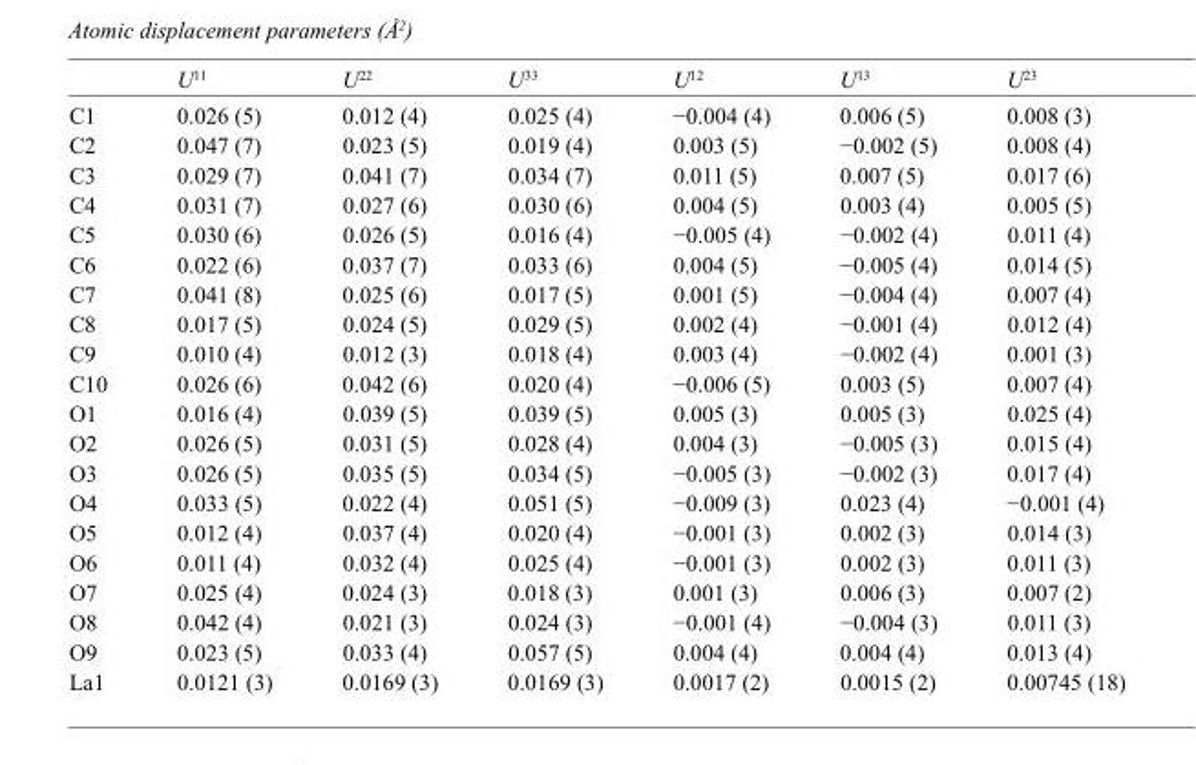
<table><thead><tr><td></td><td>U<sup>11</sup></td><td>U<sup>22</sup></td><td>U<sup>33</sup></td><td>U<sup>12</sup></td><td>U<sup>13</sup></td><td>U<sup>23</sup></td></tr></thead><tbody><tr><td>C1</td><td>0.026 (5)</td><td>0.012 (4)</td><td>0.025 (4)</td><td>−0.004 (4)</td><td>0.006 (5)</td><td>0.008 (3)</td></tr><tr><td>C2</td><td>0.047 (7)</td><td>0.023 (5)</td><td>0.019 (4)</td><td>0.003 (5)</td><td>−0.002 (5)</td><td>0.008 (4)</td></tr><tr><td>C3</td><td>0.029 (7)</td><td>0.041 (7)</td><td>0.034 (7)</td><td>0.011 (5)</td><td>0.007 (5)</td><td>0.017 (6)</td></tr><tr><td>C4</td><td>0.031 (7)</td><td>0.027 (6)</td><td>0.030 (6)</td><td>0.004 (5)</td><td>0.003 (4)</td><td>0.005 (5)</td></tr><tr><td>C5</td><td>0.030 (6)</td><td>0.026 (5)</td><td>0.016 (4)</td><td>−0.005 (4)</td><td>−0.002 (4)</td><td>0.011 (4)</td></tr><tr><td>C6</td><td>0.022 (6)</td><td>0.037 (7)</td><td>0.033 (6)</td><td>0.004 (5)</td><td>−0.005 (4)</td><td>0.014 (5)</td></tr><tr><td>C7</td><td>0.041 (8)</td><td>0.025 (6)</td><td>0.017 (5)</td><td>0.001 (5)</td><td>−0.004 (4)</td><td>0.007 (4)</td></tr><tr><td>C8</td><td>0.017 (5)</td><td>0.024 (5)</td><td>0.029 (5)</td><td>0.002 (4)</td><td>−0.001 (4)</td><td>0.012 (4)</td></tr><tr><td>C9</td><td>0.010 (4)</td><td>0.012 (3)</td><td>0.018 (4)</td><td>0.003 (4)</td><td>−0.002 (4)</td><td>0.001 (3)</td></tr><tr><td>C10</td><td>0.026 (6)</td><td>0.042 (6)</td><td>0.020 (4)</td><td>−0.006 (5)</td><td>0.003 (5)</td><td>0.007 (4)</td></tr><tr><td>O1</td><td>0.016 (4)</td><td>0.039 (5)</td><td>0.039 (5)</td><td>0.005 (3)</td><td>0.005 (3)</td><td>0.025 (4)</td></tr><tr><td>O2</td><td>0.026 (5)</td><td>0.031 (5)</td><td>0.028 (4)</td><td>0.004 (3)</td><td>−0.005 (3)</td><td>0.015 (4)</td></tr><tr><td>O3</td><td>0.026 (5)</td><td>0.035 (5)</td><td>0.034 (5)</td><td>−0.005 (3)</td><td>−0.002 (3)</td><td>0.017 (4)</td></tr><tr><td>O4</td><td>0.033 (5)</td><td>0.022 (4)</td><td>0.051 (5)</td><td>−0.009 (3)</td><td>0.023 (4)</td><td>−0.001 (4)</td></tr><tr><td>O5</td><td>0.012 (4)</td><td>0.037 (4)</td><td>0.020 (4)</td><td>−0.001 (3)</td><td>0.002 (3)</td><td>0.014 (3)</td></tr><tr><td>O6</td><td>0.011 (4)</td><td>0.032 (4)</td><td>0.025 (4)</td><td>−0.001 (3)</td><td>0.002 (3)</td><td>0.011 (3)</td></tr><tr><td>O7</td><td>0.025 (4)</td><td>0.024 (3)</td><td>0.018 (3)</td><td>0.001 (3)</td><td>0.006 (3)</td><td>0.007 (2)</td></tr><tr><td>O8</td><td>0.042 (4)</td><td>0.021 (3)</td><td>0.024 (3)</td><td>−0.001 (4)</td><td>−0.004 (3)</td><td>0.011 (3)</td></tr><tr><td>O9</td><td>0.023 (5)</td><td>0.033 (4)</td><td>0.057 (5)</td><td>0.004 (4)</td><td>0.004 (4)</td><td>0.013 (4)</td></tr><tr><td>La1</td><td>0.0121 (3)</td><td>0.0169 (3)</td><td>0.0169 (3)</td><td>0.0017 (2)</td><td>0.0015 (2)</td><td>0.00745 (18)</td></tr></tbody></table>